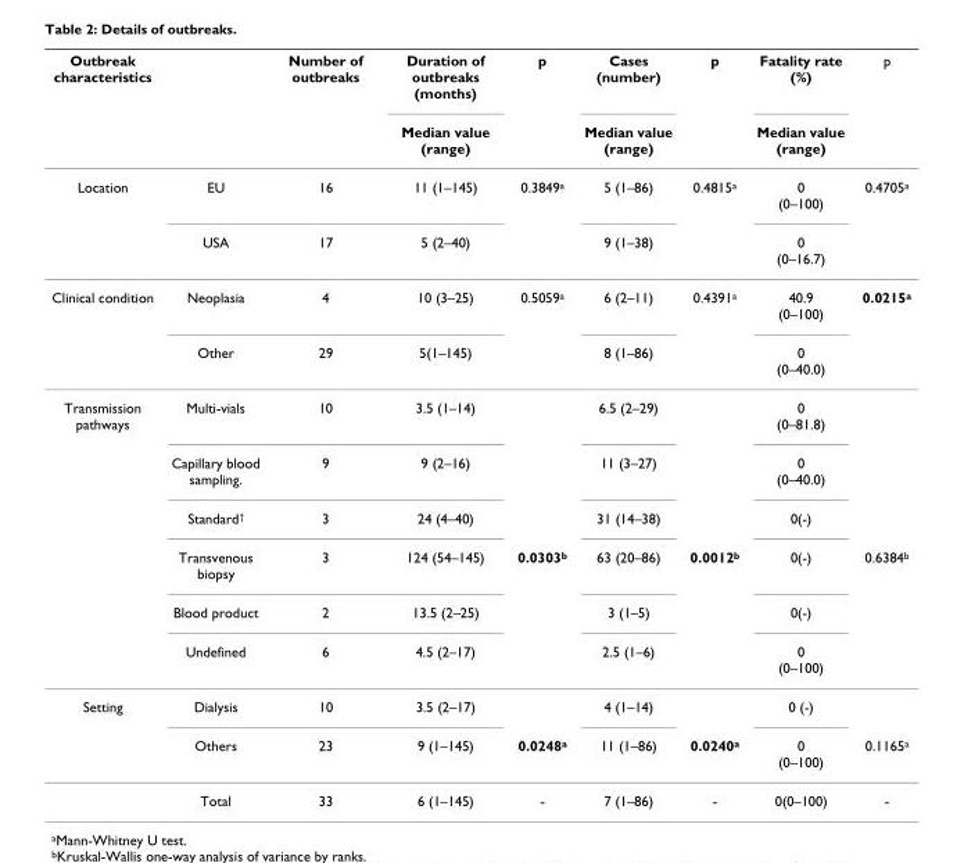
<table><thead><tr><td rowspan="2">Outbreak characteristics</td><td rowspan="2"></td><td rowspan="2">Number of outbreaks</td><td rowspan="2">Duration of outbreaks (months) Median value (range)</td><td rowspan="2">p</td><td rowspan="2">Cases (number) Median value (range)</td><td rowspan="2">p</td><td rowspan="2">Fatality rate (%) Median value (range)</td><td rowspan="2">p</td></tr><tr></tr></thead><tbody><tr><td rowspan="2">Location</td><td>EU</td><td>16</td><td>11 (1–145)</td><td>0.3849a</td><td>5 (1–86)</td><td>0.4815a</td><td>0 (0–100)</td><td>0.4705a</td></tr><tr><td>USA</td><td>17</td><td>5 (2–40)</td><td></td><td>9 (1–38)</td><td></td><td>0 (0–16.7)</td><td></td></tr><tr><td rowspan="2">Clinical condition</td><td>Neoplasia</td><td>4</td><td>10 (3–25)</td><td>0.5059<sup>a</sup></td><td>6 (2–11)</td><td>0.4391<sup>a</sup></td><td>40.9 (0–100)</td><td>0.0215<sup>a</sup></td></tr><tr><td>Other</td><td>29</td><td>5(1–145)</td><td></td><td>8 (1–86)</td><td></td><td>0 (0–40.0)</td><td></td></tr><tr><td rowspan="6">Transmission pathways</td><td>Multi-vials</td><td>10</td><td>3.5 (1–14)</td><td></td><td>6.5 (2–29)</td><td></td><td>0 (0–81.8)</td><td></td></tr><tr><td>Capillary blood sampling.</td><td>9</td><td>9 (2–16)</td><td></td><td>11 (3–27)</td><td></td><td>0 (0–40.0)</td><td></td></tr><tr><td>Standard<sup>†</sup></td><td>3</td><td>24 (4–40)</td><td></td><td>31 (14–38)</td><td></td><td>0(-)</td><td></td></tr><tr><td>Transvenous biopsy</td><td>3</td><td>124 (54–145)</td><td>0.0303<sup>b</sup></td><td>63 (20–86)</td><td>0.0012<sup>b</sup></td><td>0(-)</td><td>0.6384<sup>b</sup></td></tr><tr><td>Blood product</td><td>2</td><td>13.5 (2–25)</td><td></td><td>3 (1–5)</td><td></td><td>0(-)</td><td></td></tr><tr><td>Undefined</td><td>6</td><td>4.5 (2–17)</td><td></td><td>2.5 (1–6)</td><td></td><td>0 (0–100)</td><td></td></tr><tr><td rowspan="3">Setting</td><td>Dialysis</td><td>10</td><td>3.5 (2–17)</td><td></td><td>4 (1–14)</td><td></td><td>0 (-)</td><td></td></tr><tr><td>Others</td><td>23</td><td>9 (1–145)</td><td>0.0248<sup>a</sup></td><td>11 (1–86)</td><td>0.0240<sup>a</sup></td><td>0 (0–100)</td><td>0.1165<sup>a</sup></td></tr><tr><td>Total</td><td>33</td><td>6 (1–145)</td><td>-</td><td>7 (1–86)</td><td>-</td><td>0(0–100)</td><td>-</td></tr></tbody></table>